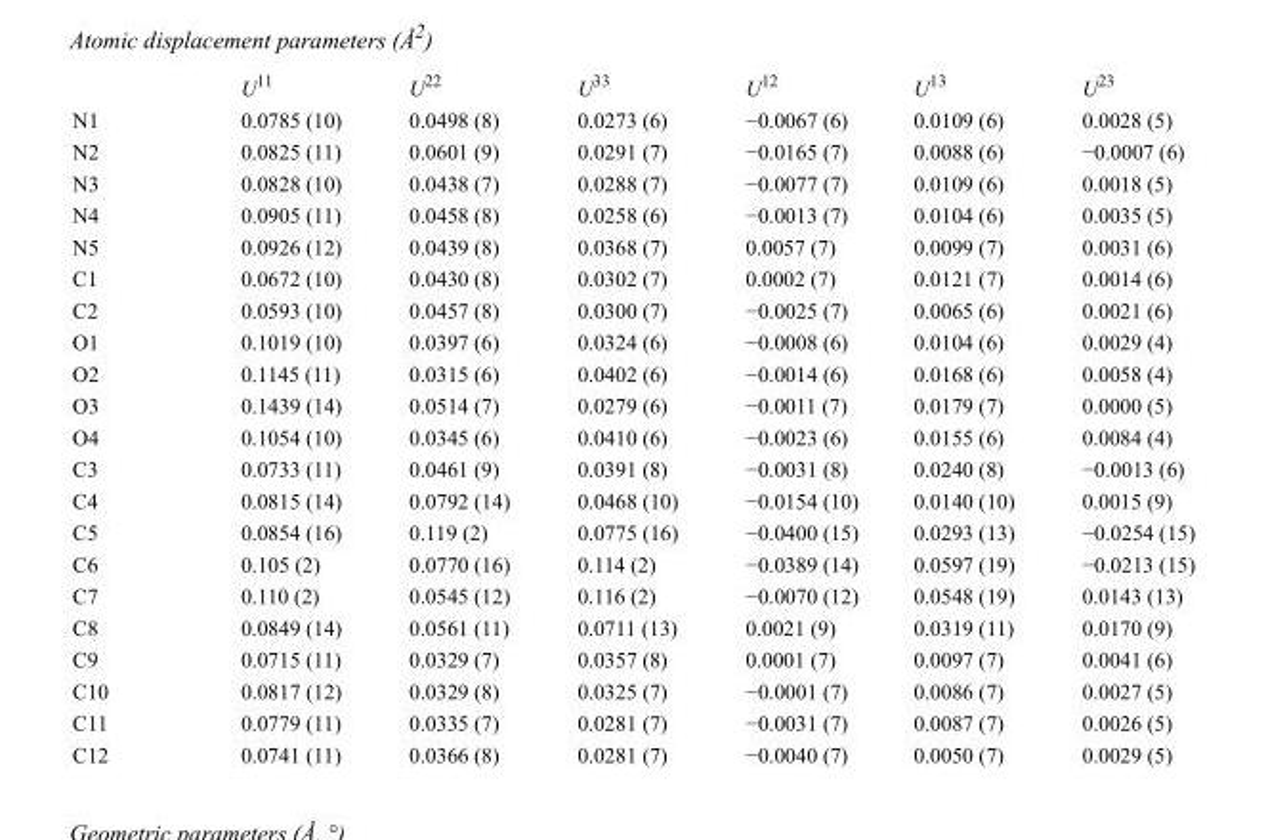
<table><thead><tr><td></td><td>U<sup>11</sup></td><td>U<sup>22</sup></td><td>U<sup>33</sup></td><td>U<sup>12</sup></td><td>U<sup>13</sup></td><td>U<sup>23</sup></td></tr></thead><tbody><tr><td>N1</td><td>0.0785 (10)</td><td>0.0498 (8)</td><td>0.0273 (6)</td><td>−0.0067 (6)</td><td>0.0109 (6)</td><td>0.0028 (5)</td></tr><tr><td>N2</td><td>0.0825 (11)</td><td>0.0601 (9)</td><td>0.0291 (7)</td><td>−0.0165 (7)</td><td>0.0088 (6)</td><td>−0.0007 (6)</td></tr><tr><td>N3</td><td>0.0828 (10)</td><td>0.0438 (7)</td><td>0.0288 (7)</td><td>−0.0077 (7)</td><td>0.0109 (6)</td><td>0.0018 (5)</td></tr><tr><td>N4</td><td>0.0905 (11)</td><td>0.0458 (8)</td><td>0.0258 (6)</td><td>−0.0013 (7)</td><td>0.0104 (6)</td><td>0.0035 (5)</td></tr><tr><td>N5</td><td>0.0926 (12)</td><td>0.0439 (8)</td><td>0.0368 (7)</td><td>0.0057 (7)</td><td>0.0099 (7)</td><td>0.0031 (6)</td></tr><tr><td>C1</td><td>0.0672 (10)</td><td>0.0430 (8)</td><td>0.0302 (7)</td><td>0.0002 (7)</td><td>0.0121 (7)</td><td>0.0014 (6)</td></tr><tr><td>C2</td><td>0.0593 (10)</td><td>0.0457 (8)</td><td>0.0300 (7)</td><td>−0.0025 (7)</td><td>0.0065 (6)</td><td>0.0021 (6)</td></tr><tr><td>O1</td><td>0.1019 (10)</td><td>0.0397 (6)</td><td>0.0324 (6)</td><td>−0.0008 (6)</td><td>0.0104 (6)</td><td>0.0029 (4)</td></tr><tr><td>O2</td><td>0.1145 (11)</td><td>0.0315 (6)</td><td>0.0402 (6)</td><td>−0.0014 (6)</td><td>0.0168 (6)</td><td>0.0058 (4)</td></tr><tr><td>O3</td><td>0.1439 (14)</td><td>0.0514 (7)</td><td>0.0279 (6)</td><td>−0.0011 (7)</td><td>0.0179 (7)</td><td>0.0000 (5)</td></tr><tr><td>O4</td><td>0.1054 (10)</td><td>0.0345 (6)</td><td>0.0410 (6)</td><td>−0.0023 (6)</td><td>0.0155 (6)</td><td>0.0084 (4)</td></tr><tr><td>C3</td><td>0.0733 (11)</td><td>0.0461 (9)</td><td>0.0391 (8)</td><td>−0.0031 (8)</td><td>0.0240 (8)</td><td>−0.0013 (6)</td></tr><tr><td>C4</td><td>0.0815 (14)</td><td>0.0792 (14)</td><td>0.0468 (10)</td><td>−0.0154 (10)</td><td>0.0140 (10)</td><td>0.0015 (9)</td></tr><tr><td>C5</td><td>0.0854 (16)</td><td>0.119 (2)</td><td>0.0775 (16)</td><td>−0.0400 (15)</td><td>0.0293 (13)</td><td>−0.0254 (15)</td></tr><tr><td>C6</td><td>0.105 (2)</td><td>0.0770 (16)</td><td>0.114 (2)</td><td>−0.0389 (14)</td><td>0.0597 (19)</td><td>−0.0213 (15)</td></tr><tr><td>C7</td><td>0.110 (2)</td><td>0.0545 (12)</td><td>0.116 (2)</td><td>−0.0070 (12)</td><td>0.0548 (19)</td><td>0.0143 (13)</td></tr><tr><td>C8</td><td>0.0849 (14)</td><td>0.0561 (11)</td><td>0.0711 (13)</td><td>0.0021 (9)</td><td>0.0319 (11)</td><td>0.0170 (9)</td></tr><tr><td>C9</td><td>0.0715 (11)</td><td>0.0329 (7)</td><td>0.0357 (8)</td><td>0.0001 (7)</td><td>0.0097 (7)</td><td>0.0041 (6)</td></tr><tr><td>C10</td><td>0.0817 (12)</td><td>0.0329 (8)</td><td>0.0325 (7)</td><td>−0.0001 (7)</td><td>0.0086 (7)</td><td>0.0027 (5)</td></tr><tr><td>C11</td><td>0.0779 (11)</td><td>0.0335 (7)</td><td>0.0281 (7)</td><td>−0.0031 (7)</td><td>0.0087 (7)</td><td>0.0026 (5)</td></tr><tr><td>C12</td><td>0.0741 (11)</td><td>0.0366 (8)</td><td>0.0281 (7)</td><td>−0.0040 (7)</td><td>0.0050 (7)</td><td>0.0029 (5)</td></tr></tbody></table>